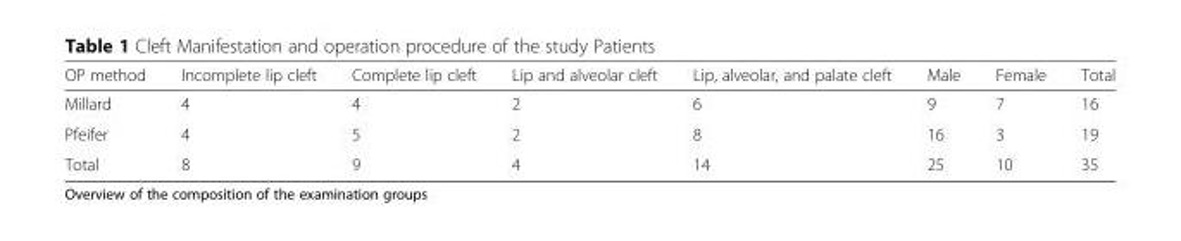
<table><thead><tr><td>OP method</td><td>Incomplete lip cleft</td><td>Complete lip cleft</td><td>Lip and alveolar cleft</td><td>Lip, alveolar, and palate cleft</td><td>Male</td><td>Female</td><td>Total</td></tr></thead><tbody><tr><td>Millard</td><td>4</td><td>4</td><td>2</td><td>6</td><td>9</td><td>7</td><td>16</td></tr><tr><td>Pfeifer</td><td>4</td><td>5</td><td>2</td><td>8</td><td>16</td><td>3</td><td>19</td></tr><tr><td>Total</td><td>8</td><td>9</td><td>4</td><td>14</td><td>25</td><td>10</td><td>35</td></tr></tbody></table>